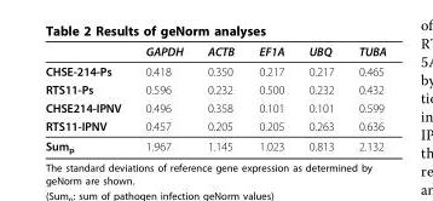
<table><thead><tr><td></td><td>GAPDH</td><td>ACTB</td><td>EF1A</td><td>UBQ</td><td>TUBA</td></tr></thead><tbody><tr><td>CHSE-214-Ps</td><td>0.418</td><td>0.350</td><td>0.217</td><td>0.217</td><td>0.465</td></tr><tr><td>RTS11-Ps</td><td>0.596</td><td>0.232</td><td>0.500</td><td>0.232</td><td>0.432</td></tr><tr><td>CHSE214-IPNV</td><td>0.496</td><td>0.358</td><td>0.101</td><td>0.101</td><td>0.599</td></tr><tr><td>RTS11-IPNV</td><td>0.457</td><td>0.205</td><td>0.205</td><td>0.263</td><td>0.636</td></tr><tr><td>Sum<sub>p</sub></td><td>1.967</td><td>1.145</td><td>1.023</td><td>0.813</td><td>2.132</td></tr></tbody></table>